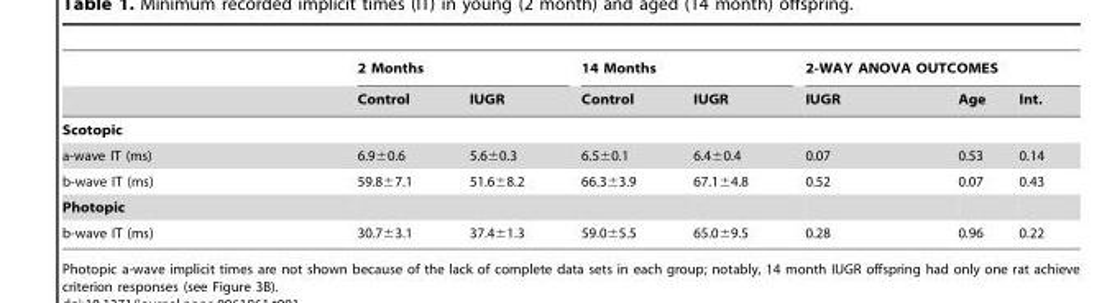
<table><thead><tr><td rowspan="2"></td><td colspan="2">2 Months</td><td colspan="2">14 Months</td><td colspan="3">2-WAY ANOVA OUTCOMES</td></tr><tr><td>Control</td><td>IUGR</td><td>Control</td><td>IUGR</td><td>IUGR</td><td>Age</td><td>Int.</td></tr></thead><tbody><tr><td colspan="8">Scotopic</td></tr><tr><td>a-wave IT (ms)</td><td>6.9±0.6</td><td>5.6±0.3</td><td>6.5±0.1</td><td>6.4±0.4</td><td>0.07</td><td>0.53</td><td>0.14</td></tr><tr><td>b-wave IT (ms)</td><td>59.8±7.1</td><td>51.6±8.2</td><td>66.3±3.9</td><td>67.1±4.8</td><td>0.52</td><td>0.07</td><td>0.43</td></tr><tr><td colspan="8">Photopic</td></tr><tr><td>b-wave IT (ms)</td><td>30.7±3.1</td><td>37.4±1.3</td><td>59.0±5.5</td><td>65.0±9.5</td><td>0.28</td><td>0.96</td><td>0.22</td></tr></tbody></table>